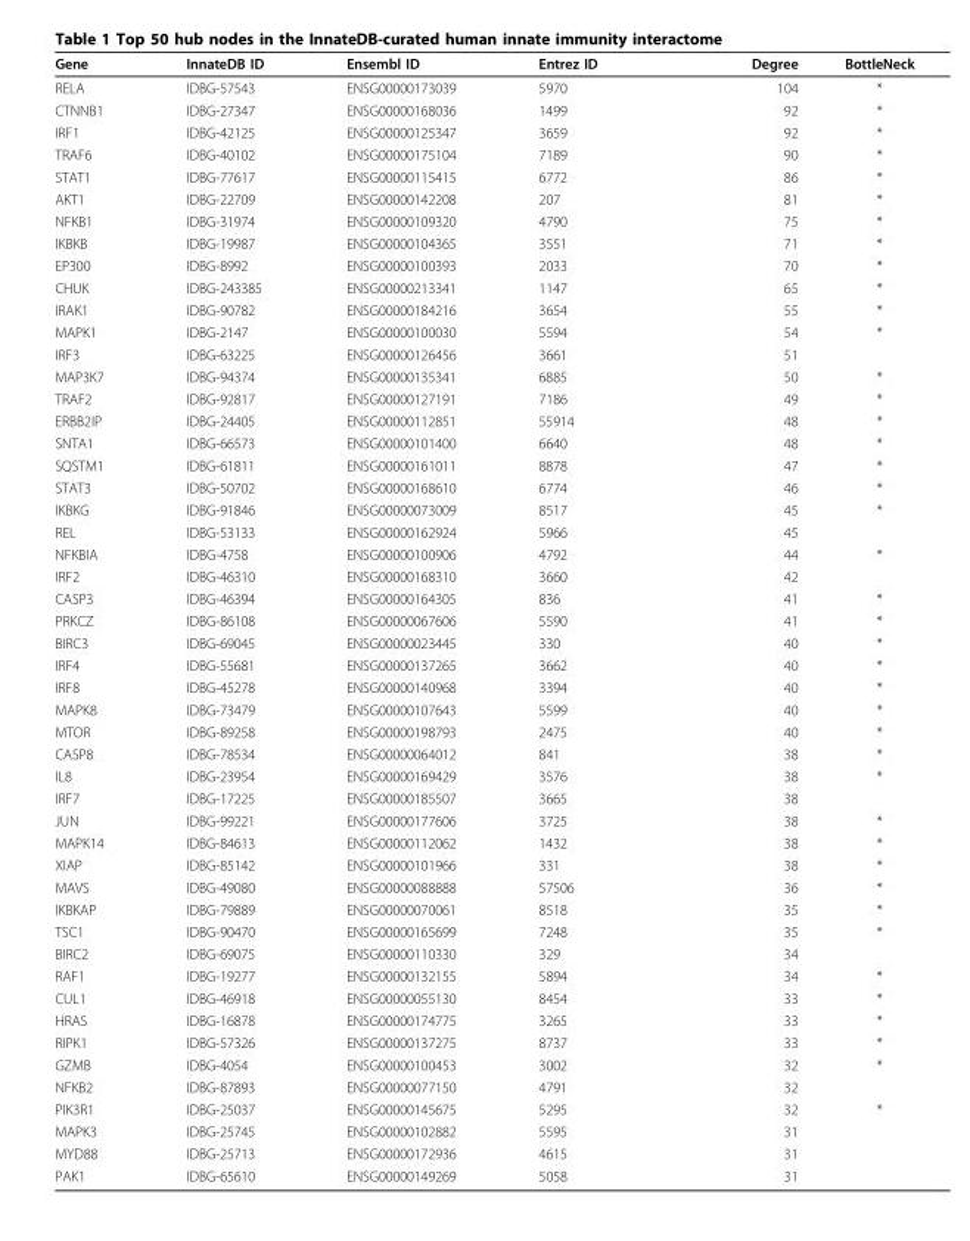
<table><thead><tr><td>Gene</td><td>InnateDB ID</td><td>Ensembl ID</td><td>Entrez ID</td><td>Degree</td><td>BottleNeck</td></tr></thead><tbody><tr><td>RELA</td><td>IDBG-57543</td><td>ENSG00000173039</td><td>5970</td><td>104</td><td>*</td></tr><tr><td>CTNNB1</td><td>IDBG-27347</td><td>ENSG00000168036</td><td>1499</td><td>92</td><td>*</td></tr><tr><td>IRF1</td><td>IDBG-42125</td><td>ENSG00000125347</td><td>3659</td><td>92</td><td>*</td></tr><tr><td>TRAF6</td><td>IDBG-40102</td><td>ENSG00000175104</td><td>7189</td><td>90</td><td>*</td></tr><tr><td>STAT1</td><td>IDBG-77617</td><td>ENSG00000115415</td><td>6772</td><td>86</td><td>*</td></tr><tr><td>AKT1</td><td>IDBG-22709</td><td>ENSG00000142208</td><td>207</td><td>81</td><td>*</td></tr><tr><td>NFKB1</td><td>IDBG-31974</td><td>ENSG00000109320</td><td>4790</td><td>75</td><td>*</td></tr><tr><td>IKBKB</td><td>IDBG-19987</td><td>ENSG00000104365</td><td>3551</td><td>71</td><td>*</td></tr><tr><td>EP300</td><td>IDBG-8992</td><td>ENSG00000100393</td><td>2033</td><td>70</td><td>*</td></tr><tr><td>CHUK</td><td>IDBG-243385</td><td>ENSG00000213341</td><td>1147</td><td>65</td><td>*</td></tr><tr><td>IRAK1</td><td>IDBG-90782</td><td>ENSG00000184216</td><td>3654</td><td>55</td><td>*</td></tr><tr><td>MAPK1</td><td>IDBG-2147</td><td>ENSG00000100030</td><td>5594</td><td>54</td><td>*</td></tr><tr><td>IRF3</td><td>IDBG-63225</td><td>ENSG00000126456</td><td>3661</td><td>51</td><td></td></tr><tr><td>MAP3K7</td><td>IDBG-94374</td><td>ENSG00000135341</td><td>6885</td><td>50</td><td>*</td></tr><tr><td>TRAF2</td><td>IDBG-92817</td><td>ENSG00000127191</td><td>7186</td><td>49</td><td>*</td></tr><tr><td>ERBB2IP</td><td>IDBG-24405</td><td>ENSG00000112851</td><td>55914</td><td>48</td><td>*</td></tr><tr><td>SNTA1</td><td>IDBG-66573</td><td>ENSG00000101400</td><td>6640</td><td>48</td><td>*</td></tr><tr><td>SQSTM1</td><td>IDBG-61811</td><td>ENSG00000161011</td><td>8878</td><td>47</td><td>*</td></tr><tr><td>STAT3</td><td>IDBG-50702</td><td>ENSG00000168610</td><td>6774</td><td>46</td><td>*</td></tr><tr><td>IKBKG</td><td>IDBG-91846</td><td>ENSG00000073009</td><td>8517</td><td>45</td><td>*</td></tr><tr><td>REL</td><td>IDBG-53133</td><td>ENSG00000162924</td><td>5966</td><td>45</td><td></td></tr><tr><td>NFKBIA</td><td>IDBG-4758</td><td>ENSG00000100906</td><td>4792</td><td>44</td><td>*</td></tr><tr><td>IRF2</td><td>IDBG-46310</td><td>ENSG00000168310</td><td>3660</td><td>42</td><td></td></tr><tr><td>CASP3</td><td>IDBG-46394</td><td>ENSG00000164305</td><td>836</td><td>41</td><td>*</td></tr><tr><td>PRKCZ</td><td>IDBG-86108</td><td>ENSG00000067606</td><td>5590</td><td>41</td><td>*</td></tr><tr><td>BIRC3</td><td>IDBG-69045</td><td>ENSG00000023445</td><td>330</td><td>40</td><td>*</td></tr><tr><td>IRF4</td><td>IDBG-55681</td><td>ENSG00000137265</td><td>3662</td><td>40</td><td>*</td></tr><tr><td>IRF8</td><td>IDBG-45278</td><td>ENSG00000140968</td><td>3394</td><td>40</td><td>*</td></tr><tr><td>MAPK8</td><td>IDBG-73479</td><td>ENSG00000107643</td><td>5599</td><td>40</td><td>*</td></tr><tr><td>MTOR</td><td>IDBG-89258</td><td>ENSG00000198793</td><td>2475</td><td>40</td><td>*</td></tr><tr><td>CASP8</td><td>IDBG-78534</td><td>ENSG00000064012</td><td>841</td><td>38</td><td>*</td></tr><tr><td>IL8</td><td>IDBG-23954</td><td>ENSG00000169429</td><td>3576</td><td>38</td><td>*</td></tr><tr><td>IRF7</td><td>IDBG-17225</td><td>ENSG00000185507</td><td>3665</td><td>38</td><td></td></tr><tr><td>JUN</td><td>IDBG-99221</td><td>ENSG00000177606</td><td>3725</td><td>38</td><td>*</td></tr><tr><td>MAPK14</td><td>IDBG-84613</td><td>ENSG00000112062</td><td>1432</td><td>38</td><td>*</td></tr><tr><td>XIAP</td><td>IDBG-85142</td><td>ENSG00000101966</td><td>331</td><td>38</td><td>*</td></tr><tr><td>MAVS</td><td>IDBG-49080</td><td>ENSG00000088888</td><td>57506</td><td>36</td><td>*</td></tr><tr><td>IKBKAP</td><td>IDBG-79889</td><td>ENSG00000070061</td><td>8518</td><td>35</td><td>*</td></tr><tr><td>TSC1</td><td>IDBG-90470</td><td>ENSG00000165699</td><td>7248</td><td>35</td><td>*</td></tr><tr><td>BIRC2</td><td>IDBG-69075</td><td>ENSG00000110330</td><td>329</td><td>34</td><td></td></tr><tr><td>RAF1</td><td>IDBG-19277</td><td>ENSG00000132155</td><td>5894</td><td>34</td><td>*</td></tr><tr><td>CUL1</td><td>IDBG-46918</td><td>ENSG00000055130</td><td>8454</td><td>33</td><td>*</td></tr><tr><td>HRAS</td><td>IDBG-16878</td><td>ENSG00000174775</td><td>3265</td><td>33</td><td>*</td></tr><tr><td>RIPK1</td><td>IDBG-57326</td><td>ENSG00000137275</td><td>8737</td><td>33</td><td>*</td></tr><tr><td>GZMB</td><td>IDBG-4054</td><td>ENSG00000100453</td><td>3002</td><td>32</td><td>*</td></tr><tr><td>NFKB2</td><td>IDBG-87893</td><td>ENSG00000077150</td><td>4791</td><td>32</td><td></td></tr><tr><td>PIK3R1</td><td>IDBG-25037</td><td>ENSG00000145675</td><td>5295</td><td>32</td><td>*</td></tr><tr><td>MAPK3</td><td>IDBG-25745</td><td>ENSG00000102882</td><td>5595</td><td>31</td><td></td></tr><tr><td>MYD88</td><td>IDBG-25713</td><td>ENSG00000172936</td><td>4615</td><td>31</td><td></td></tr><tr><td>PAK1</td><td>IDBG-65610</td><td>ENSG00000149269</td><td>5058</td><td>31</td><td></td></tr></tbody></table>